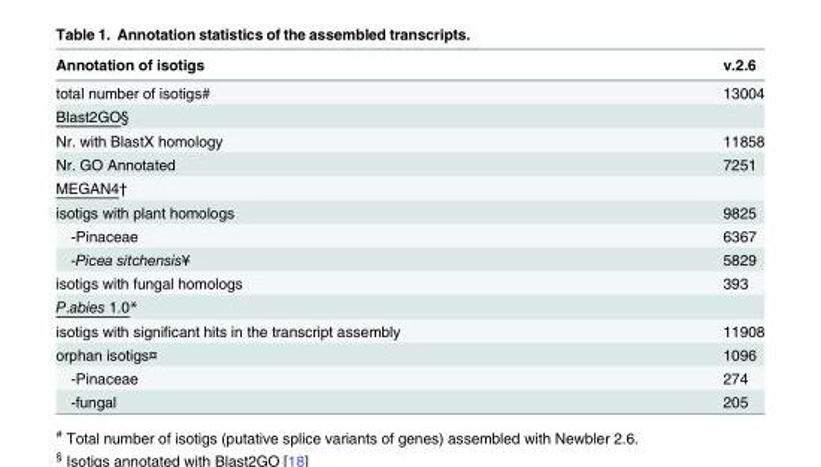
<table><thead><tr><td>Annotation of isotigs</td><td>v.2.6</td></tr></thead><tbody><tr><td>total number of isotigs#</td><td>13004</td></tr><tr><td colspan="2">Blast2GO§</td></tr><tr><td>Nr. with BlastX homology</td><td>11858</td></tr><tr><td>Nr. GO Annotated</td><td>7251</td></tr><tr><td colspan="2">MEGAN4†</td></tr><tr><td>isotigs with plant homologs</td><td>9825</td></tr><tr><td>-Pinaceae</td><td>6367</td></tr><tr><td>-Picea sitchensis¥</td><td>5829</td></tr><tr><td>isotigs with fungal homologs</td><td>393</td></tr><tr><td colspan="2">P.abies 1.0*</td></tr><tr><td>isotigs with significant hits in the transcript assembly</td><td>11908</td></tr><tr><td>orphan isotigs¤</td><td>1096</td></tr><tr><td>-Pinaceae</td><td>274</td></tr><tr><td>-fungal</td><td>205</td></tr></tbody></table>